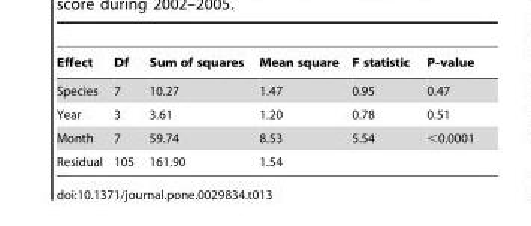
<table><thead><tr><td>Effect</td><td>Df</td><td>Sum of squares</td><td>Mean square</td><td>F statistic</td><td>P-value</td></tr></thead><tbody><tr><td>Species</td><td>7</td><td>10.27</td><td>1.47</td><td>0.95</td><td>0.47</td></tr><tr><td>Year</td><td>3</td><td>3.61</td><td>1.20</td><td>0.78</td><td>0.51</td></tr><tr><td>Month</td><td>7</td><td>59.74</td><td>8.53</td><td>5.54</td><td>&lt;0.0001</td></tr><tr><td>Residual</td><td>105</td><td>161.90</td><td>1.54</td><td></td><td></td></tr></tbody></table>